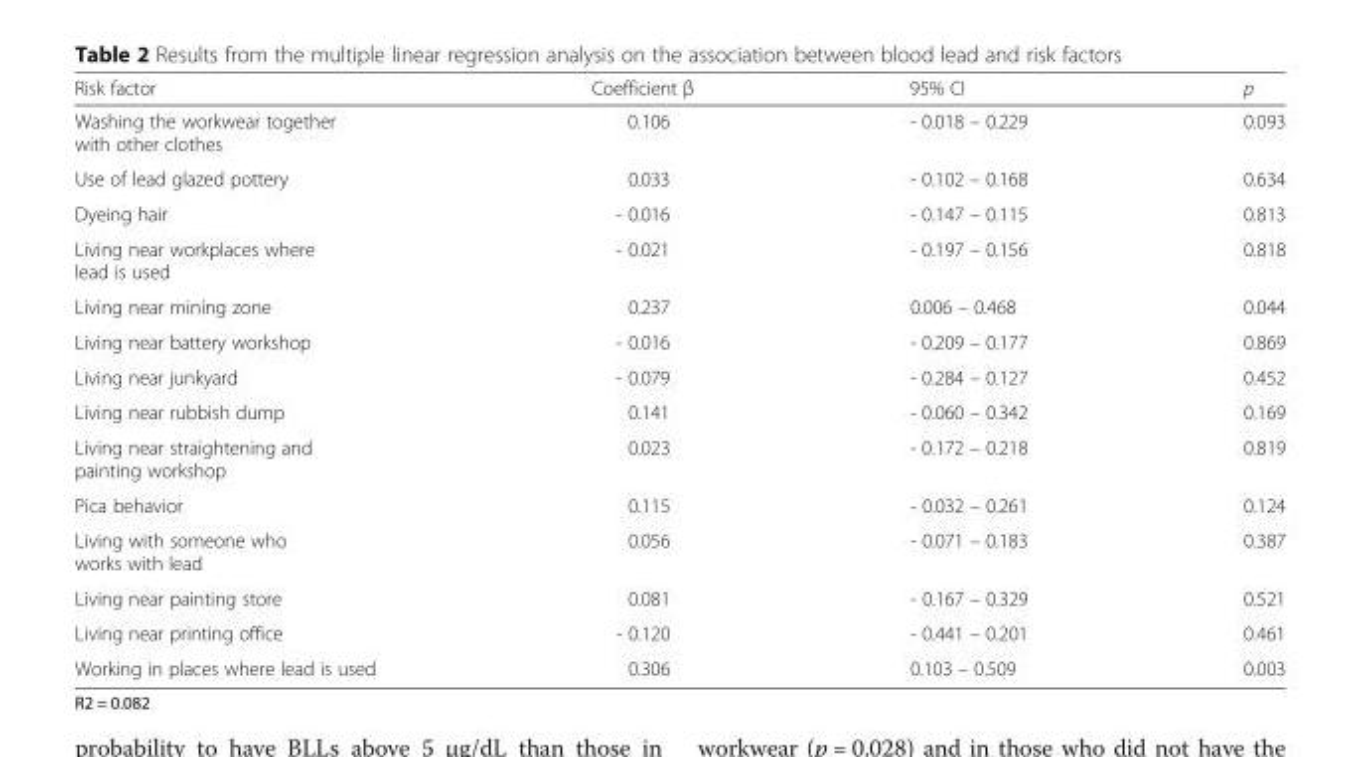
<table><thead><tr><td>Risk factor</td><td>Coefficient β</td><td>95% CI</td><td>p</td></tr></thead><tbody><tr><td>Washing the workwear together with other clothes</td><td>0.106</td><td>- 0.018 – 0.229</td><td>0.093</td></tr><tr><td>Use of lead glazed pottery</td><td>0.033</td><td>- 0.102 – 0.168</td><td>0.634</td></tr><tr><td>Dyeing hair</td><td>- 0.016</td><td>- 0.147 – 0.115</td><td>0.813</td></tr><tr><td>Living near workplaces where lead is used</td><td>- 0.021</td><td>- 0.197 – 0.156</td><td>0.818</td></tr><tr><td>Living near mining zone</td><td>0.237</td><td>0.006 – 0.468</td><td>0.044</td></tr><tr><td>Living near battery workshop</td><td>- 0.016</td><td>- 0.209 – 0.177</td><td>0.869</td></tr><tr><td>Living near junkyard</td><td>- 0.079</td><td>- 0.284 – 0.127</td><td>0.452</td></tr><tr><td>Living near rubbish dump</td><td>0.141</td><td>- 0.060 – 0.342</td><td>0.169</td></tr><tr><td>Living near straightening and painting workshop</td><td>0.023</td><td>- 0.172 – 0.218</td><td>0.819</td></tr><tr><td>Pica behavior</td><td>0.115</td><td>- 0.032 – 0.261</td><td>0.124</td></tr><tr><td>Living with someone who works with lead</td><td>0.056</td><td>- 0.071 – 0.183</td><td>0.387</td></tr><tr><td>Living near painting store</td><td>0.081</td><td>- 0.167 – 0.329</td><td>0.521</td></tr><tr><td>Living near printing office</td><td>- 0.120</td><td>- 0.441 – 0.201</td><td>0.461</td></tr><tr><td>Working in places where lead is used</td><td>0.306</td><td>0.103 – 0.509</td><td>0.003</td></tr></tbody></table>